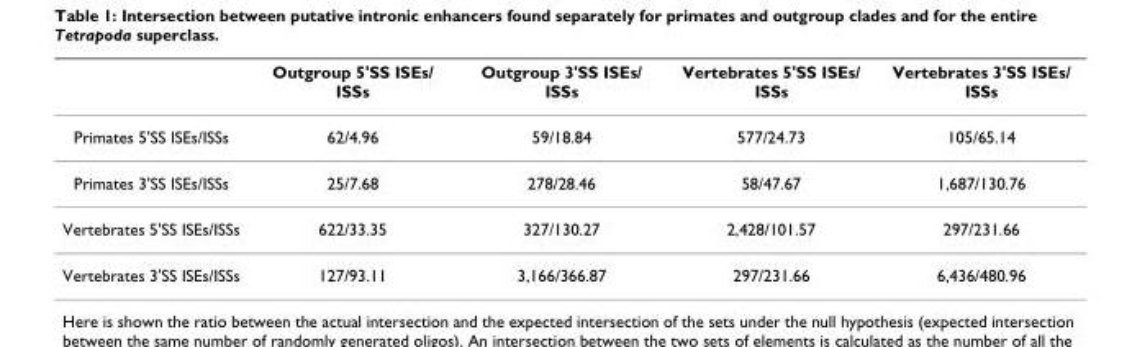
<table><thead><tr><td></td><td>Outgroup 5&#x27;SS ISEs/ ISSs</td><td>Outgroup 3&#x27;SS ISEs/ ISSs</td><td>Vertebrates 5&#x27;SS ISEs/ ISSs</td><td>Vertebrates 3&#x27;SS ISEs/ ISSs</td></tr></thead><tbody><tr><td>Primates 5&#x27;SS ISEs/ISSs</td><td>62/4.96</td><td>59/18.84</td><td>577/24.73</td><td>105/65.14</td></tr><tr><td>Primates 3&#x27;SS ISEs/ISSs</td><td>25/7.68</td><td>278/28.46</td><td>58/47.67</td><td>1,687/130.76</td></tr><tr><td>Vertebrates 5&#x27;SS ISEs/ISSs</td><td>622/33.35</td><td>327/130.27</td><td>2,428/101.57</td><td>297/231.66</td></tr><tr><td>Vertebrates 3&#x27;SS ISEs/ISSs</td><td>127/93.11</td><td>3,166/366.87</td><td>297/231.66</td><td>6,436/480.96</td></tr></tbody></table>